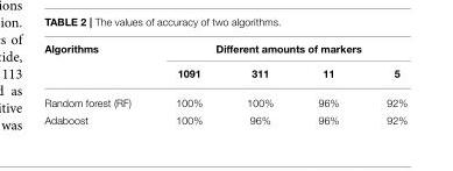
<table><thead><tr><td rowspan="2">Algorithms</td><td colspan="4">Different amounts of markers</td></tr><tr><td>1091</td><td>311</td><td>11</td><td>5</td></tr></thead><tbody><tr><td>Random forest (RF)</td><td>100%</td><td>100%</td><td>96%</td><td>92%</td></tr><tr><td>Adaboost</td><td>100%</td><td>96%</td><td>96%</td><td>92%</td></tr></tbody></table>